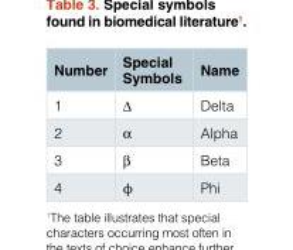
<table><thead><tr><td>Number</td><td>Special Symbols</td><td>Name</td></tr></thead><tbody><tr><td>1</td><td>Δ</td><td>Delta</td></tr><tr><td>2</td><td>α</td><td>Alpha</td></tr><tr><td>3</td><td>β</td><td>Beta</td></tr><tr><td>4</td><td>ϕ</td><td>Phi</td></tr></tbody></table>